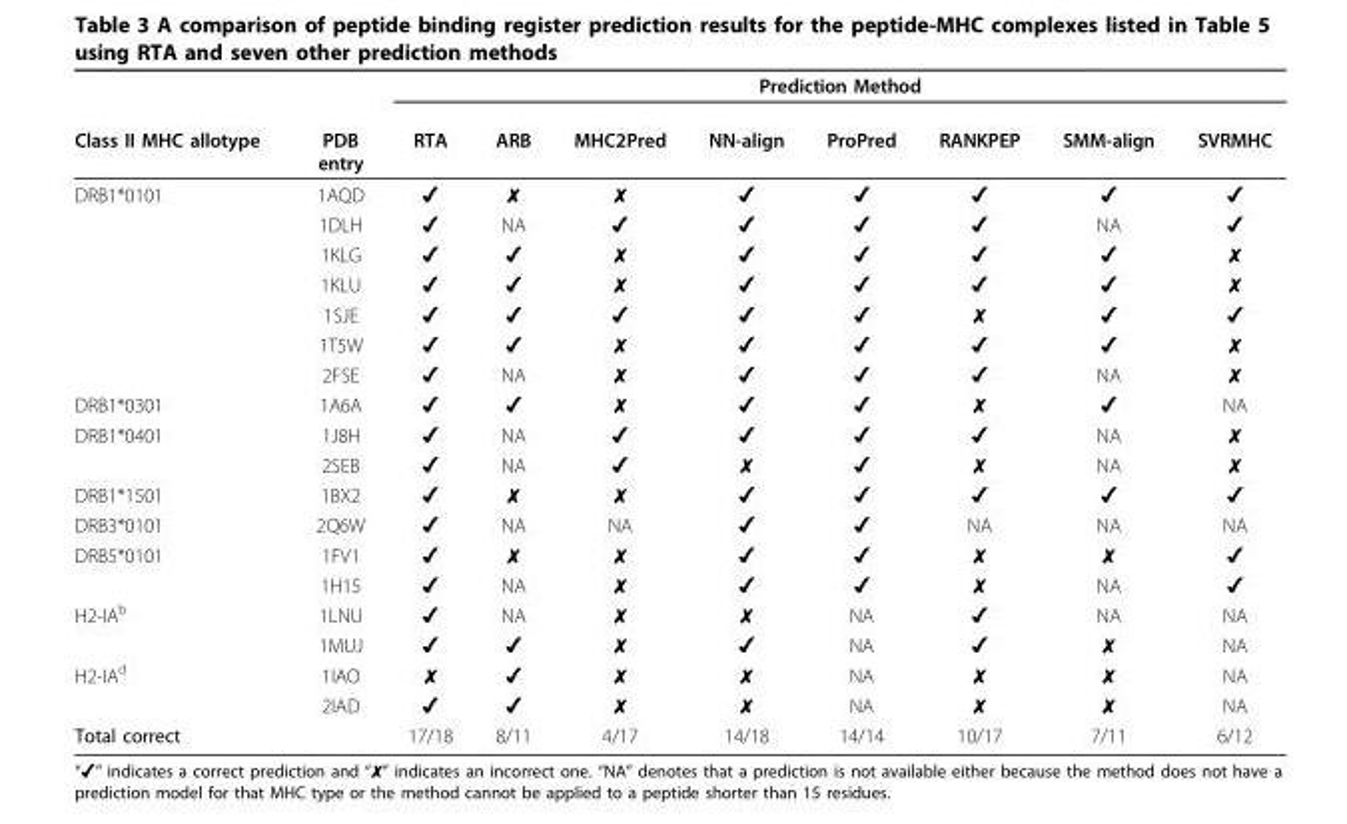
<table><thead><tr><td rowspan="2">Class II MHC allotype</td><td rowspan="2">PDB entry</td><td colspan="8">Prediction Method</td></tr><tr><td>RTA</td><td>ARB</td><td>MHC2Pred</td><td>NN-align</td><td>ProPred</td><td>RANKPEP</td><td>SMM-align</td><td>SVRMHC</td></tr></thead><tbody><tr><td rowspan="7">DRB1*0101</td><td>1AQD</td><td>✔</td><td>✘</td><td>✘</td><td>✔</td><td>✔</td><td>✔</td><td>✔</td><td>✔</td></tr><tr><td>1DLH</td><td>✔</td><td>NA</td><td>✔</td><td>✔</td><td>✔</td><td>✔</td><td>NA</td><td>✔</td></tr><tr><td>1KLG</td><td>✔</td><td>✔</td><td>✘</td><td>✔</td><td>✔</td><td>✔</td><td>✔</td><td>✘</td></tr><tr><td>1KLU</td><td>✔</td><td>✔</td><td>✘</td><td>✔</td><td>✔</td><td>✔</td><td>✔</td><td>✘</td></tr><tr><td>1SJE</td><td>✔</td><td>✔</td><td>✔</td><td>✔</td><td>✔</td><td>✘</td><td>✔</td><td>✔</td></tr><tr><td>1T5W</td><td>✔</td><td>✔</td><td>✘</td><td>✔</td><td>✔</td><td>✔</td><td>✔</td><td>✘</td></tr><tr><td>2FSE</td><td>✔</td><td>NA</td><td>✘</td><td>✔</td><td>✔</td><td>✔</td><td>NA</td><td>✘</td></tr><tr><td>DRB1*0301</td><td>1A6A</td><td>✔</td><td>✔</td><td>✘</td><td>✔</td><td>✔</td><td>✘</td><td>✔</td><td>NA</td></tr><tr><td rowspan="2">DRB1*0401</td><td>1J8H</td><td>✔</td><td>NA</td><td>✔</td><td>✔</td><td>✔</td><td>✔</td><td>NA</td><td>✘</td></tr><tr><td>2SEB</td><td>✔</td><td>NA</td><td>✔</td><td>✘</td><td>✔</td><td>✘</td><td>NA</td><td>✘</td></tr><tr><td>DRB1*1501</td><td>1BX2</td><td>✔</td><td>✘</td><td>✘</td><td>✔</td><td>✔</td><td>✔</td><td>✔</td><td>✔</td></tr><tr><td>DRB3*0101</td><td>2Q6W</td><td>✔</td><td>NA</td><td>NA</td><td>✔</td><td>✔</td><td>NA</td><td>NA</td><td>NA</td></tr><tr><td rowspan="2">DRB5*0101</td><td>1FV1</td><td>✔</td><td>✘</td><td>✘</td><td>✔</td><td>✔</td><td>✘</td><td>✘</td><td>✔</td></tr><tr><td>1H15</td><td>✔</td><td>NA</td><td>✘</td><td>✔</td><td>✔</td><td>✘</td><td>NA</td><td>✔</td></tr><tr><td rowspan="2">H2-IA<sup>b</sup></td><td>1LNU</td><td>✔</td><td>NA</td><td>✘</td><td>✘</td><td>NA</td><td>✔</td><td>NA</td><td>NA</td></tr><tr><td>1MUJ</td><td>✔</td><td>✔</td><td>✘</td><td>✔</td><td>NA</td><td>✔</td><td>✘</td><td>NA</td></tr><tr><td rowspan="2">H2-IA<sup>d</sup></td><td>1IAO</td><td>✘</td><td>✔</td><td>✘</td><td>✘</td><td>NA</td><td>✘</td><td>✘</td><td>NA</td></tr><tr><td>2IAD</td><td>✔</td><td>✔</td><td>✘</td><td>✘</td><td>NA</td><td>✘</td><td>✘</td><td>NA</td></tr><tr><td>Total correct</td><td></td><td>17/18</td><td>8/11</td><td>4/17</td><td>14/18</td><td>14/14</td><td>10/17</td><td>7/11</td><td>6/12</td></tr></tbody></table>